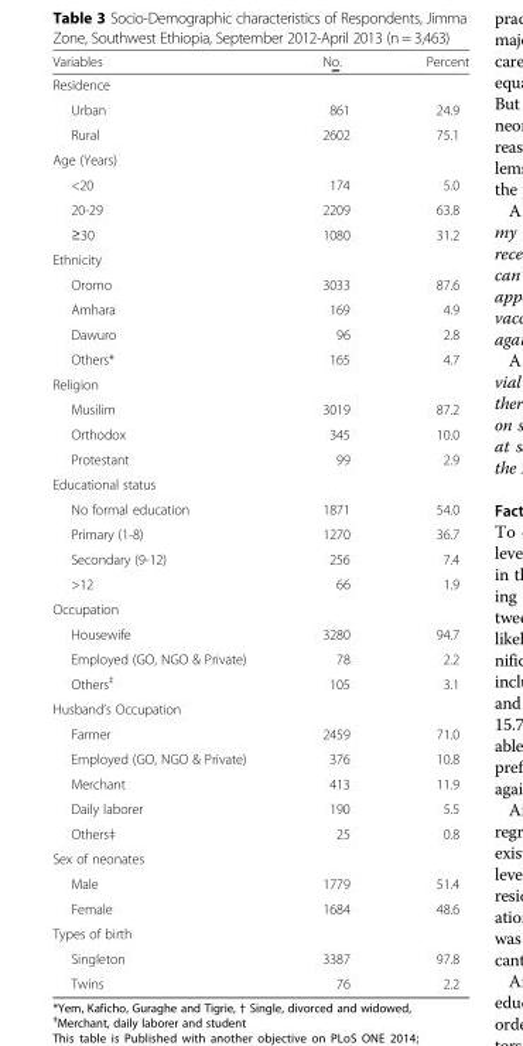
<table><thead><tr><td>Variables</td><td>No.</td><td>Percent</td></tr></thead><tbody><tr><td colspan="3">Residence</td></tr><tr><td>Urban</td><td>861</td><td>24.9</td></tr><tr><td>Rural</td><td>2602</td><td>75.1</td></tr><tr><td colspan="3">Age (Years)</td></tr><tr><td>&lt;20</td><td>174</td><td>5.0</td></tr><tr><td>20-29</td><td>2209</td><td>63.8</td></tr><tr><td>≥30</td><td>1080</td><td>31.2</td></tr><tr><td colspan="3">Ethnicity</td></tr><tr><td>Oromo</td><td>3033</td><td>87.6</td></tr><tr><td>Amhara</td><td>169</td><td>4.9</td></tr><tr><td>Dawuro</td><td>96</td><td>2.8</td></tr><tr><td>Others*</td><td>165</td><td>4.7</td></tr><tr><td colspan="3">Religion</td></tr><tr><td>Musilim</td><td>3019</td><td>87.2</td></tr><tr><td>Orthodox</td><td>345</td><td>10.0</td></tr><tr><td>Protestant</td><td>99</td><td>2.9</td></tr><tr><td colspan="3">Educational status</td></tr><tr><td>No formal education</td><td>1871</td><td>54.0</td></tr><tr><td>Primary (1-8)</td><td>1270</td><td>36.7</td></tr><tr><td>Secondary (9-12)</td><td>256</td><td>7.4</td></tr><tr><td>&gt;12</td><td>66</td><td>1.9</td></tr><tr><td colspan="3">Occupation</td></tr><tr><td>Housewife</td><td>3280</td><td>94.7</td></tr><tr><td>Employed (GO, NGO &amp; Private)</td><td>78</td><td>2.2</td></tr><tr><td>Others<sup>‡</sup></td><td>105</td><td>3.1</td></tr><tr><td colspan="3">Husband’s Occupation</td></tr><tr><td>Farmer</td><td>2459</td><td>71.0</td></tr><tr><td>Employed (GO, NGO &amp; Private)</td><td>376</td><td>10.8</td></tr><tr><td>Merchant</td><td>413</td><td>11.9</td></tr><tr><td>Daily laborer</td><td>190</td><td>5.5</td></tr><tr><td>Others‡</td><td>25</td><td>0.8</td></tr><tr><td colspan="3">Sex of neonates</td></tr><tr><td>Male</td><td>1779</td><td>51.4</td></tr><tr><td>Female</td><td>1684</td><td>48.6</td></tr><tr><td colspan="3">Types of birth</td></tr><tr><td>Singleton</td><td>3387</td><td>97.8</td></tr><tr><td>Twins</td><td>76</td><td>2.2</td></tr></tbody></table>